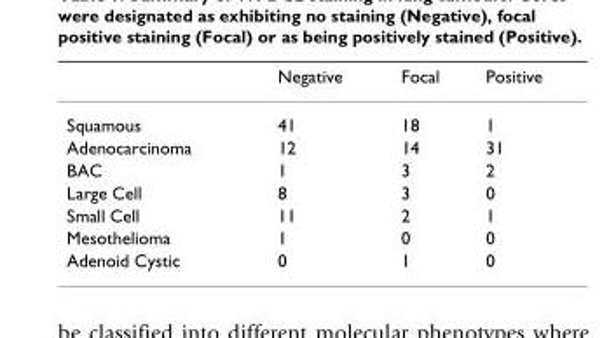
<table><thead><tr><td></td><td>Negative</td><td>Focal</td><td>Positive</td></tr></thead><tbody><tr><td>Squamous</td><td>41</td><td>18</td><td>1</td></tr><tr><td>Adenocarcinoma</td><td>12</td><td>14</td><td>31</td></tr><tr><td>BAC</td><td>1</td><td>3</td><td>2</td></tr><tr><td>Large Cell</td><td>8</td><td>3</td><td>0</td></tr><tr><td>Small Cell</td><td>11</td><td>2</td><td>1</td></tr><tr><td>Mesothelioma</td><td>1</td><td>0</td><td>0</td></tr><tr><td>Adenoid Cystic</td><td>0</td><td>1</td><td>0</td></tr></tbody></table>